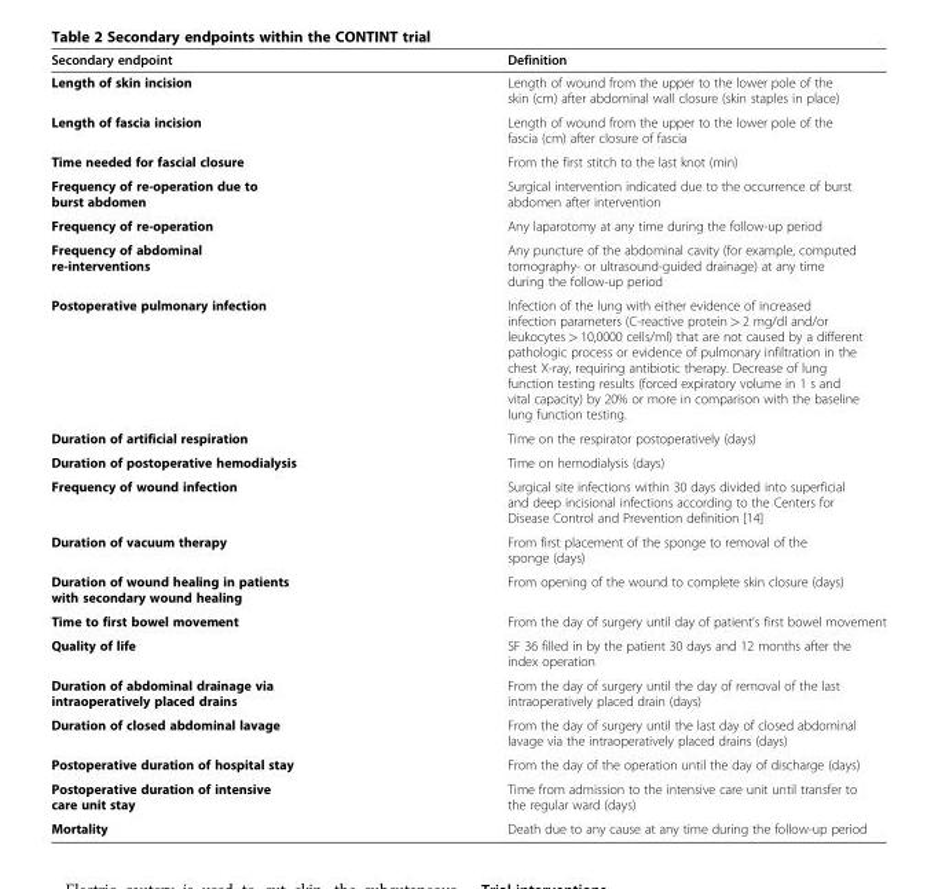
<table><thead><tr><td>Secondary endpoint</td><td>Definition</td></tr></thead><tbody><tr><td>Length of skin incision</td><td>Length of wound from the upper to the lower pole of the skin (cm) after abdominal wall closure (skin staples in place)</td></tr><tr><td>Length of fascia incision</td><td>Length of wound from the upper to the lower pole of the fascia (cm) after closure of fascia</td></tr><tr><td>Time needed for fascial closure</td><td>From the first stitch to the last knot (min)</td></tr><tr><td>Frequency of re-operation due to burst abdomen</td><td>Surgical intervention indicated due to the occurrence of burst abdomen after intervention</td></tr><tr><td>Frequency of re-operation</td><td>Any laparotomy at any time during the follow-up period</td></tr><tr><td>Frequency of abdominal re-interventions</td><td>Any puncture of the abdominal cavity (for example, computed tomography- or ultrasound-guided drainage) at any time during the follow-up period</td></tr><tr><td>Postoperative pulmonary infection</td><td>Infection of the lung with either evidence of increased infection parameters (C-reactive protein &gt; 2 mg/dl and/or leukocytes &gt; 10,0000 cells/ml) that are not caused by a different pathologic process or evidence of pulmonary infiltration in the chest X-ray, requiring antibiotic therapy. Decrease of lung function testing results (forced expiratory volume in 1 s and vital capacity) by 20% or more in comparison with the baseline lung function testing.</td></tr><tr><td>Duration of artificial respiration</td><td>Time on the respirator postoperatively (days)</td></tr><tr><td>Duration of postoperative hemodialysis</td><td>Time on hemodialysis (days)</td></tr><tr><td>Frequency of wound infection</td><td>Surgical site infections within 30 days divided into superficial and deep incisional infections according to the Centers for Disease Control and Prevention definition [14]</td></tr><tr><td>Duration of vacuum therapy</td><td>From first placement of the sponge to removal of the sponge (days)</td></tr><tr><td>Duration of wound healing in patients with secondary wound healing</td><td>From opening of the wound to complete skin closure (days)</td></tr><tr><td>Time to first bowel movement</td><td>From the day of surgery until day of patient’s first bowel movement</td></tr><tr><td>Quality of life</td><td>SF 36 filled in by the patient 30 days and 12 months after the index operation</td></tr><tr><td>Duration of abdominal drainage via intraoperatively placed drains</td><td>From the day of surgery until the day of removal of the last intraoperatively placed drain (days)</td></tr><tr><td>Duration of closed abdominal lavage</td><td>From the day of surgery until the last day of closed abdominal lavage via the intraoperatively placed drains (days)</td></tr><tr><td>Postoperative duration of hospital stay</td><td>From the day of the operation until the day of discharge (days)</td></tr><tr><td>Postoperative duration of intensive care unit stay</td><td>Time from admission to the intensive care unit until transfer to the regular ward (days)</td></tr><tr><td>Mortality</td><td>Death due to any cause at any time during the follow-up period</td></tr></tbody></table>